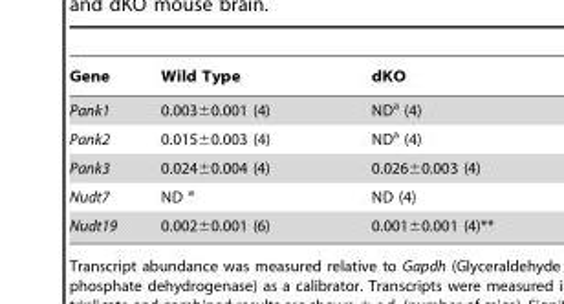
<table><thead><tr><td>Gene</td><td>Wild Type</td><td>dKO</td></tr></thead><tbody><tr><td>Pank1</td><td>0.003±0.001 (4)</td><td>ND<sup>a</sup> (4)</td></tr><tr><td>Pank2</td><td>0.015±0.003 (4)</td><td>ND<sup>a</sup> (4)</td></tr><tr><td>Pank3</td><td>0.024±0.004 (4)</td><td>0.026±0.003 (4)</td></tr><tr><td>Nudt7</td><td>ND a</td><td>ND (4)</td></tr><tr><td>Nudt19</td><td>0.002±0.001 (6)</td><td>0.001±0.001 (4)**</td></tr></tbody></table>